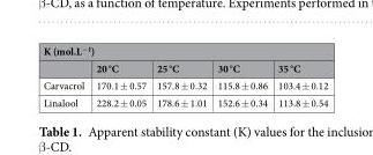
<table><thead><tr><td colspan="5">K (mol.L<sup>−1</sup>)</td></tr><tr><td></td><td>20 °C</td><td>25 °C</td><td>30 °C</td><td>35 °C</td></tr></thead><tbody><tr><td>Carvacrol</td><td>170.1 ± 0.57</td><td>157.8 ± 0.32</td><td>115.8 ± 0.86</td><td>103.4 ± 0.12</td></tr><tr><td>Linalool</td><td>228.2 ± 0.05</td><td>178.6 ± 1.01</td><td>152.6 ± 0.34</td><td>113.8 ± 0.54</td></tr></tbody></table>